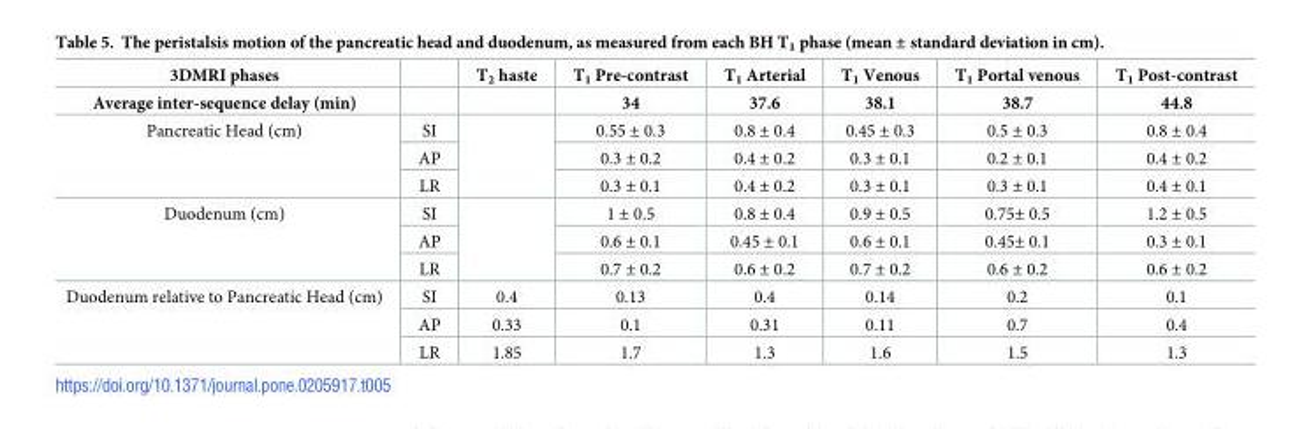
<table><thead><tr><td rowspan="2">3DMRI phases Average inter-sequence delay (min)</td><td rowspan="2"></td><td rowspan="2">T<sub>2</sub> haste</td><td rowspan="2">T<sub>1</sub> Pre-contrast 34</td><td rowspan="2">T<sub>1</sub> Arterial 37.6</td><td rowspan="2">T<sub>1</sub> Venous 38.1</td><td rowspan="2">T<sub>1</sub> Portal venous 38.7</td><td rowspan="2">T<sub>1</sub> Post-contrast 44.8</td></tr><tr></tr></thead><tbody><tr><td rowspan="3">Pancreatic Head (cm)</td><td>SI</td><td rowspan="3"></td><td>0.55 ± 0.3</td><td>0.8 ± 0.4</td><td>0.45 ± 0.3</td><td>0.5 ± 0.3</td><td>0.8 ± 0.4</td></tr><tr><td>AP</td><td>0.3 ± 0.2</td><td>0.4 ± 0.2</td><td>0.3 ± 0.1</td><td>0.2 ± 0.1</td><td>0.4 ± 0.2</td></tr><tr><td>LR</td><td>0.3 ± 0.1</td><td>0.4 ± 0.2</td><td>0.3 ± 0.1</td><td>0.3 ± 0.1</td><td>0.4 ± 0.1</td></tr><tr><td rowspan="3">Duodenum (cm)</td><td>SI</td><td rowspan="3"></td><td>1 ± 0.5</td><td>0.8 ± 0.4</td><td>0.9 ± 0.5</td><td>0.75± 0.5</td><td>1.2 ± 0.5</td></tr><tr><td>AP</td><td>0.6 ± 0.1</td><td>0.45 ± 0.1</td><td>0.6 ± 0.1</td><td>0.45± 0.1</td><td>0.3 ± 0.1</td></tr><tr><td>LR</td><td>0.7 ± 0.2</td><td>0.6 ± 0.2</td><td>0.7 ± 0.2</td><td>0.6 ± 0.2</td><td>0.6 ± 0.2</td></tr><tr><td rowspan="3">Duodenum relative to Pancreatic Head (cm)</td><td>SI</td><td>0.4</td><td>0.13</td><td>0.4</td><td>0.14</td><td>0.2</td><td>0.1</td></tr><tr><td>AP</td><td>0.33</td><td>0.1</td><td>0.31</td><td>0.11</td><td>0.7</td><td>0.4</td></tr><tr><td>LR</td><td>1.85</td><td>1.7</td><td>1.3</td><td>1.6</td><td>1.5</td><td>1.3</td></tr></tbody></table>